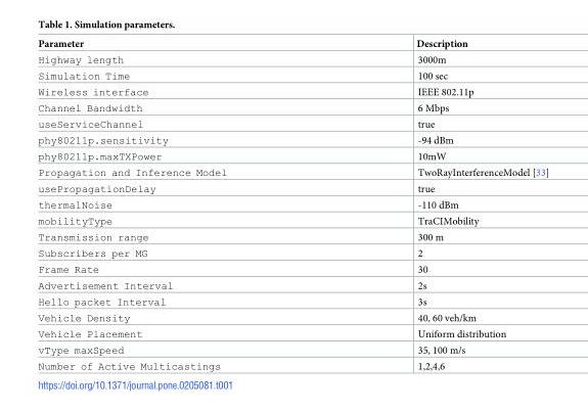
<table><thead><tr><td>Parameter</td><td>Description</td></tr></thead><tbody><tr><td>Highway length</td><td>3000m</td></tr><tr><td>Simulation Time</td><td>100 sec</td></tr><tr><td>Wireless interface</td><td>IEEE 802.11p</td></tr><tr><td>Channel Bandwidth</td><td>6 Mbps</td></tr><tr><td>useServiceChannel</td><td>true</td></tr><tr><td>phy80211p.sensitivity</td><td>-94 dBm</td></tr><tr><td>phy80211p.maxTXPower</td><td>10mW</td></tr><tr><td>Propagation and Inference Model</td><td>TwoRayInterferenceModel [33]</td></tr><tr><td>usePropagationDelay</td><td>true</td></tr><tr><td>thermalNoise</td><td>-110 dBm</td></tr><tr><td>mobilityType</td><td>TraCIMobility</td></tr><tr><td>Transmission range</td><td>300 m</td></tr><tr><td>Subscribers per MG</td><td>2</td></tr><tr><td>Frame Rate</td><td>30</td></tr><tr><td>Advertisement Interval</td><td>2s</td></tr><tr><td>Hello packet Interval</td><td>3s</td></tr><tr><td>Vehicle Density</td><td>40, 60 veh/km</td></tr><tr><td>Vehicle Placement</td><td>Uniform distribution</td></tr><tr><td>vType maxSpeed</td><td>35, 100 m/s</td></tr><tr><td>Number of Active Multicastings</td><td>1,2,4,6</td></tr></tbody></table>